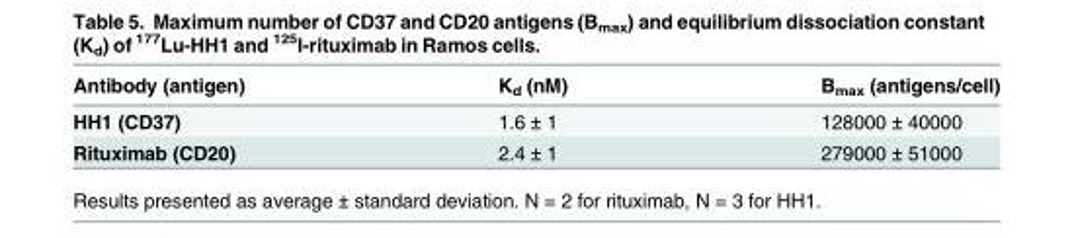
<table><thead><tr><td>Antibody (antigen)</td><td>K<sub>d</sub> (nM)</td><td>B<sub>max</sub> (antigens/cell)</td></tr></thead><tbody><tr><td>HH1 (CD37)</td><td>1.6 ± 1</td><td>128000 ± 40000</td></tr><tr><td>Rituximab (CD20)</td><td>2.4 ± 1</td><td>279000 ± 51000</td></tr></tbody></table>